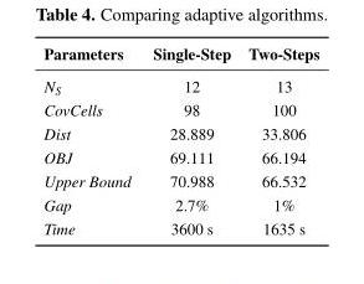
<table><thead><tr><td>Parameters</td><td>Single-Step</td><td>Two-Steps</td></tr></thead><tbody><tr><td>N<sub>S</sub></td><td>12</td><td>13</td></tr><tr><td>CovCells</td><td>98</td><td>100</td></tr><tr><td>Dist</td><td>28.889</td><td>33.806</td></tr><tr><td>OBJ</td><td>69.111</td><td>66.194</td></tr><tr><td>Upper Bound</td><td>70.988</td><td>66.532</td></tr><tr><td>Gap</td><td>2.7%</td><td>1%</td></tr><tr><td>Time</td><td>3600 s</td><td>1635 s</td></tr></tbody></table>